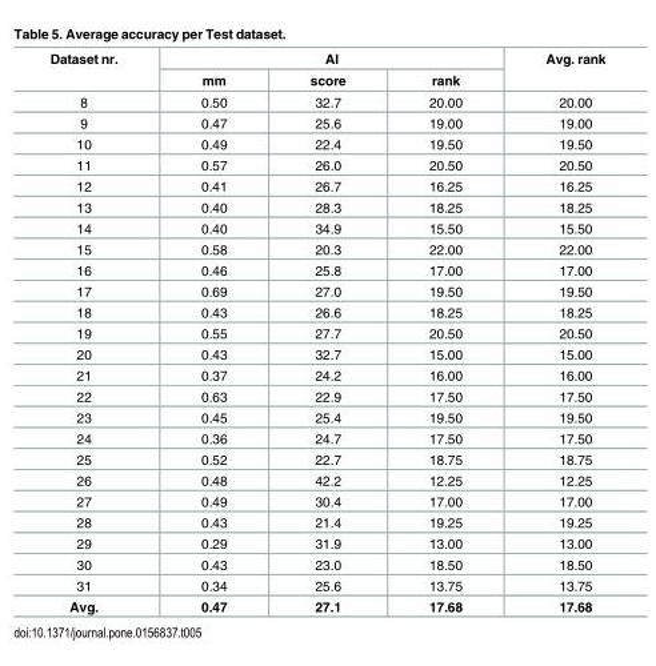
<table><thead><tr><td rowspan="2">Dataset nr.</td><td colspan="3">AI</td><td rowspan="2">Avg. rank</td></tr><tr><td>mm</td><td>score</td><td>rank</td></tr></thead><tbody><tr><td>8</td><td>0.50</td><td>32.7</td><td>20.00</td><td>20.00</td></tr><tr><td>9</td><td>0.47</td><td>25.6</td><td>19.00</td><td>19.00</td></tr><tr><td>10</td><td>0.49</td><td>22.4</td><td>19.50</td><td>19.50</td></tr><tr><td>11</td><td>0.57</td><td>26.0</td><td>20.50</td><td>20.50</td></tr><tr><td>12</td><td>0.41</td><td>26.7</td><td>16.25</td><td>16.25</td></tr><tr><td>13</td><td>0.40</td><td>28.3</td><td>18.25</td><td>18.25</td></tr><tr><td>14</td><td>0.40</td><td>34.9</td><td>15.50</td><td>15.50</td></tr><tr><td>15</td><td>0.58</td><td>20.3</td><td>22.00</td><td>22.00</td></tr><tr><td>16</td><td>0.46</td><td>25.8</td><td>17.00</td><td>17.00</td></tr><tr><td>17</td><td>0.69</td><td>27.0</td><td>19.50</td><td>19.50</td></tr><tr><td>18</td><td>0.43</td><td>26.6</td><td>18.25</td><td>18.25</td></tr><tr><td>19</td><td>0.55</td><td>27.7</td><td>20.50</td><td>20.50</td></tr><tr><td>20</td><td>0.43</td><td>32.7</td><td>15.00</td><td>15.00</td></tr><tr><td>21</td><td>0.37</td><td>24.2</td><td>16.00</td><td>16.00</td></tr><tr><td>22</td><td>0.63</td><td>22.9</td><td>17.50</td><td>17.50</td></tr><tr><td>23</td><td>0.45</td><td>25.4</td><td>19.50</td><td>19.50</td></tr><tr><td>24</td><td>0.36</td><td>24.7</td><td>17.50</td><td>17.50</td></tr><tr><td>25</td><td>0.52</td><td>22.7</td><td>18.75</td><td>18.75</td></tr><tr><td>26</td><td>0.48</td><td>42.2</td><td>12.25</td><td>12.25</td></tr><tr><td>27</td><td>0.49</td><td>30.4</td><td>17.00</td><td>17.00</td></tr><tr><td>28</td><td>0.43</td><td>21.4</td><td>19.25</td><td>19.25</td></tr><tr><td>29</td><td>0.29</td><td>31.9</td><td>13.00</td><td>13.00</td></tr><tr><td>30</td><td>0.43</td><td>23.0</td><td>18.50</td><td>18.50</td></tr><tr><td>31</td><td>0.34</td><td>25.6</td><td>13.75</td><td>13.75</td></tr><tr><td>Avg.</td><td>0.47</td><td>27.1</td><td>17.68</td><td>17.68</td></tr></tbody></table>